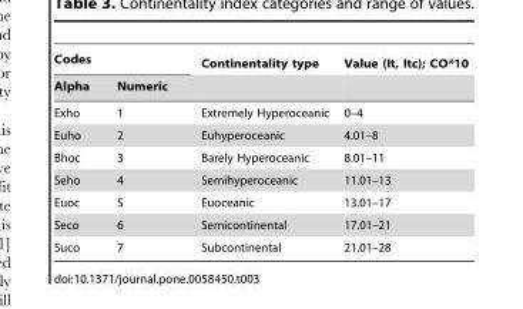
<table><thead><tr><td colspan="2">Codes</td><td rowspan="2">Continentality type</td><td rowspan="2">Value (It, Itc); CO*10</td></tr><tr><td>Alpha</td><td>Numeric</td></tr></thead><tbody><tr><td>Exho</td><td>1</td><td>Extremely Hyperoceanic</td><td>0–4</td></tr><tr><td>Euho</td><td>2</td><td>Euhyperoceanic</td><td>4.01–8</td></tr><tr><td>Bhoc</td><td>3</td><td>Barely Hyperoceanic</td><td>8.01–11</td></tr><tr><td>Seho</td><td>4</td><td>Semihyperoceanic</td><td>11.01–13</td></tr><tr><td>Euoc</td><td>5</td><td>Euoceanic</td><td>13.01–17</td></tr><tr><td>Seco</td><td>6</td><td>Semicontinental</td><td>17.01–21</td></tr><tr><td>Suco</td><td>7</td><td>Subcontinental</td><td>21.01–28</td></tr></tbody></table>